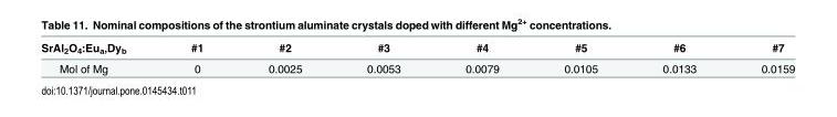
<table><thead><tr><td>SrAl<sub>2</sub>O<sub>4</sub>:Eu<sub>a</sub>,Dy<sub>b</sub></td><td>#1</td><td>#2</td><td>#3</td><td>#4</td><td>#5</td><td>#6</td><td>#7</td></tr></thead><tbody><tr><td>Mol of Mg</td><td>0</td><td>0.0025</td><td>0.0053</td><td>0.0079</td><td>0.0105</td><td>0.0133</td><td>0.0159</td></tr></tbody></table>